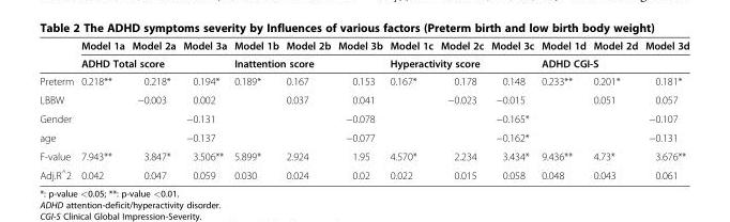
<table><thead><tr><td rowspan="2"></td><td>Model 1a</td><td>Model 2a</td><td>Model 3a</td><td>Model 1b</td><td>Model 2b</td><td>Model 3b</td><td>Model 1c</td><td>Model 2c</td><td>Model 3c</td><td>Model 1d</td><td>Model 2d</td><td>Model 3d</td></tr><tr><td colspan="3">ADHD Total score</td><td colspan="3">Inattention score</td><td colspan="3">Hyperactivity score</td><td colspan="3">ADHD CGI-S</td></tr></thead><tbody><tr><td>Preterm</td><td>0.218**</td><td>0.218*</td><td>0.194*</td><td>0.189*</td><td>0.167</td><td>0.153</td><td>0.167*</td><td>0.178</td><td>0.148</td><td>0.233**</td><td>0.201*</td><td>0.181*</td></tr><tr><td>LBBW</td><td></td><td>−0.003</td><td>0.002</td><td></td><td>0.037</td><td>0.041</td><td></td><td>−0.023</td><td>−0.015</td><td></td><td>0.051</td><td>0.057</td></tr><tr><td>Gender</td><td></td><td></td><td>−0.131</td><td></td><td></td><td>−0.078</td><td></td><td></td><td>−0.165*</td><td></td><td></td><td>−0.107</td></tr><tr><td>age</td><td></td><td></td><td>−0.137</td><td></td><td></td><td>−0.077</td><td></td><td></td><td>−0.162*</td><td></td><td></td><td>−0.131</td></tr><tr><td>F-value</td><td>7.943**</td><td>3.847*</td><td>3.506**</td><td>5.899*</td><td>2.924</td><td>1.95</td><td>4.570*</td><td>2.234</td><td>3.434*</td><td>9.436**</td><td>4.73*</td><td>3.676**</td></tr><tr><td>Adj.R<sup>^</sup>2</td><td>0.042</td><td>0.047</td><td>0.059</td><td>0.030</td><td>0.024</td><td>0.02</td><td>0.022</td><td>0.015</td><td>0.058</td><td>0.048</td><td>0.043</td><td>0.061</td></tr></tbody></table>